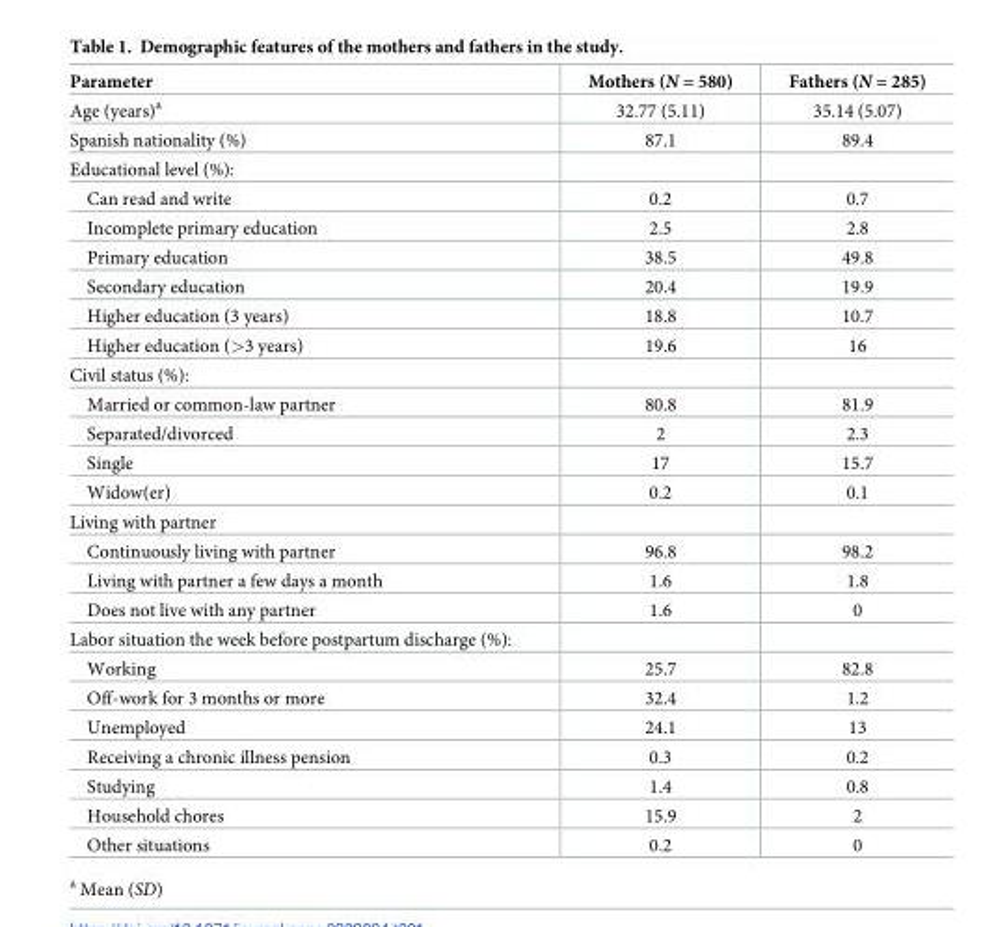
<table><thead><tr><td>Parameter</td><td>Mothers (N = 580)</td><td>Fathers (N = 285)</td></tr></thead><tbody><tr><td>Age (years)<sup>a</sup></td><td>32.77 (5.11)</td><td>35.14 (5.07)</td></tr><tr><td>Spanish nationality (%)</td><td>87.1</td><td>89.4</td></tr><tr><td colspan="3">Educational level (%):</td></tr><tr><td>Can read and write</td><td>0.2</td><td>0.7</td></tr><tr><td>Incomplete primary education</td><td>2.5</td><td>2.8</td></tr><tr><td>Primary education</td><td>38.5</td><td>49.8</td></tr><tr><td>Secondary education</td><td>20.4</td><td>19.9</td></tr><tr><td>Higher education (3 years)</td><td>18.8</td><td>10.7</td></tr><tr><td>Higher education (&gt;3 years)</td><td>19.6</td><td>16</td></tr><tr><td colspan="3">Civil status (%):</td></tr><tr><td>Married or common-law partner</td><td>80.8</td><td>81.9</td></tr><tr><td>Separated/divorced</td><td>2</td><td>2.3</td></tr><tr><td>Single</td><td>17</td><td>15.7</td></tr><tr><td>Widow(er)</td><td>0.2</td><td>0.1</td></tr><tr><td colspan="3">Living with partner</td></tr><tr><td>Continuously living with partner</td><td>96.8</td><td>98.2</td></tr><tr><td>Living with partner a few days a month</td><td>1.6</td><td>1.8</td></tr><tr><td>Does not live with any partner</td><td>1.6</td><td>0</td></tr><tr><td colspan="3">Labor situation the week before postpartum discharge (%):</td></tr><tr><td>Working</td><td>25.7</td><td>82.8</td></tr><tr><td>Off-work for 3 months or more</td><td>32.4</td><td>1.2</td></tr><tr><td>Unemployed</td><td>24.1</td><td>13</td></tr><tr><td>Receiving a chronic illness pension</td><td>0.3</td><td>0.2</td></tr><tr><td>Studying</td><td>1.4</td><td>0.8</td></tr><tr><td>Household chores</td><td>15.9</td><td>2</td></tr><tr><td>Other situations</td><td>0.2</td><td>0</td></tr></tbody></table>